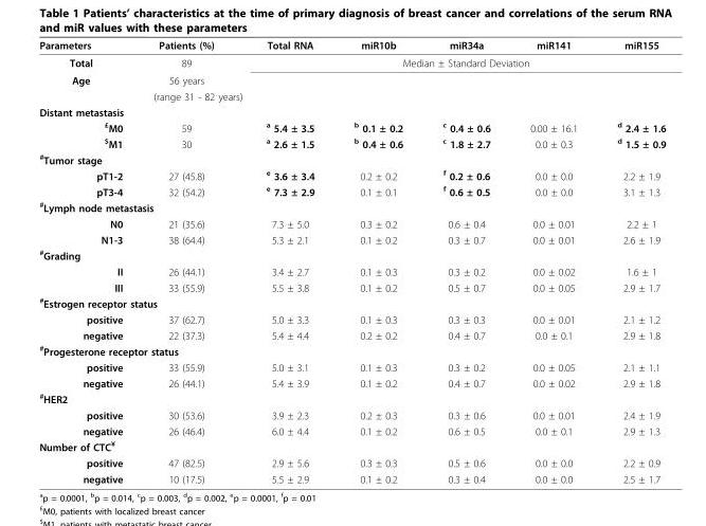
<table><thead><tr><td>Parameters</td><td>Patients (%)</td><td>Total RNA</td><td>miR10b</td><td>miR34a</td><td>miR141</td><td>miR155</td></tr></thead><tbody><tr><td>Total</td><td>89</td><td colspan="5">Median ± Standard Deviation</td></tr><tr><td>Age</td><td>56 years</td><td></td><td></td><td></td><td></td><td></td></tr><tr><td colspan="7">(range 31 - 82 years)</td></tr><tr><td colspan="7">Distant metastasis</td></tr><tr><td><sup>£</sup>M0</td><td>59</td><td><sup>a</sup> 5.4 ± 3.5</td><td><sup>b</sup> 0.1 ± 0.2</td><td><sup>c</sup> 0.4 ± 0.6</td><td>0.00 ± 16.1</td><td><sup>d</sup> 2.4 ± 1.6</td></tr><tr><td><sup>$</sup>M1</td><td>30</td><td><sup>a</sup> 2.6 ± 1.5</td><td><sup>b</sup> 0.4 ± 0.6</td><td><sup>c</sup> 1.8 ± 2.7</td><td>0.0 ± 0.3</td><td><sup>d</sup> 1.5 ± 0.9</td></tr><tr><td colspan="7"><sup>#</sup>Tumor stage</td></tr><tr><td>pT1-2</td><td>27 (45.8)</td><td><sup>e</sup> 3.6 ± 3.4</td><td>0.2 ± 0.2</td><td><sup>f</sup> 0.2 ± 0.6</td><td>0.0 ± 0.0</td><td>2.2 ± 1.9</td></tr><tr><td>pT3-4</td><td>32 (54.2)</td><td><sup>e</sup> 7.3 ± 2.9</td><td>0.1 ± 0.1</td><td><sup>f</sup> 0.6 ± 0.5</td><td>0.0 ± 0.0</td><td>3.1 ± 1.3</td></tr><tr><td colspan="7"><sup>#</sup>Lymph node metastasis</td></tr><tr><td>N0</td><td>21 (35.6)</td><td>7.3 ± 5.0</td><td>0.3 ± 0.2</td><td>0.6 ± 0.4</td><td>0.0 ± 0.01</td><td>2.2 ± 1</td></tr><tr><td>N1-3</td><td>38 (64.4)</td><td>5.3 ± 2.1</td><td>0.1 ± 0.2</td><td>0.3 ± 0.7</td><td>0.0 ± 0.01</td><td>2.6 ± 1.9</td></tr><tr><td colspan="7"><sup>#</sup>Grading</td></tr><tr><td>II</td><td>26 (44.1)</td><td>3.4 ± 2.7</td><td>0.1 ± 0.3</td><td>0.3 ± 0.2</td><td>0.0 ± 0.02</td><td>1.6 ± 1</td></tr><tr><td>III</td><td>33 (55.9)</td><td>5.5 ± 3.8</td><td>0.1 ± 0.2</td><td>0.5 ± 0.7</td><td>0.0 ± 0.05</td><td>2.9 ± 1.7</td></tr><tr><td colspan="7"><sup>#</sup>Estrogen receptor status</td></tr><tr><td>positive</td><td>37 (62.7)</td><td>5.0 ± 3.3</td><td>0.1 ± 0.3</td><td>0.3 ± 0.3</td><td>0.0 ± 0.01</td><td>2.1 ± 1.2</td></tr><tr><td>negative</td><td>22 (37.3)</td><td>5.4 ± 4.4</td><td>0.2 ± 0.2</td><td>0.4 ± 0.7</td><td>0.0 ± 0.1</td><td>2.9 ± 1.8</td></tr><tr><td colspan="7"><sup>#</sup>Progesterone receptor status</td></tr><tr><td>positive</td><td>33 (55.9)</td><td>5.0 ± 3.1</td><td>0.1 ± 0.3</td><td>0.3 ± 0.2</td><td>0.0 ± 0.05</td><td>2.1 ± 1.1</td></tr><tr><td>negative</td><td>26 (44.1)</td><td>5.4 ± 3.9</td><td>0.1 ± 0.2</td><td>0.4 ± 0.7</td><td>0.0 ± 0.02</td><td>2.9 ± 1.8</td></tr><tr><td colspan="7"><sup>#</sup>HER2</td></tr><tr><td>positive</td><td>30 (53.6)</td><td>3.9 ± 2.3</td><td>0.2 ± 0.3</td><td>0.3 ± 0.6</td><td>0.0 ± 0.01</td><td>2.4 ± 1.9</td></tr><tr><td>negative</td><td>26 (46.4)</td><td>6.0 ± 4.4</td><td>0.1 ± 0.2</td><td>0.6 ± 0.5</td><td>0.0 ± 0.1</td><td>2.9 ± 1.3</td></tr><tr><td colspan="7">Number of CTC<sup>¥</sup></td></tr><tr><td>positive</td><td>47 (82.5)</td><td>2.9 ± 5.6</td><td>0.3 ± 0.3</td><td>0.5 ± 0.6</td><td>0.0 ± 0.0</td><td>2.2 ± 0.9</td></tr><tr><td>negative</td><td>10 (17.5)</td><td>5.5 ± 2.9</td><td>0.1 ± 0.2</td><td>0.3 ± 0.4</td><td>0.0 ± 0.0</td><td>2.5 ± 1.7</td></tr></tbody></table>